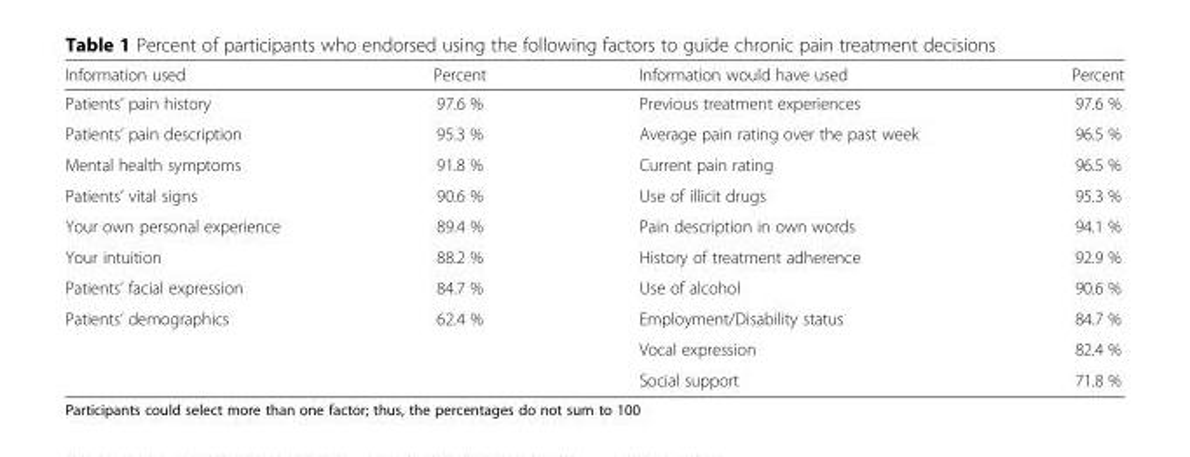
<table><thead><tr><td>Information used</td><td>Percent</td><td>Information would have used</td><td>Percent</td></tr></thead><tbody><tr><td>Patients’ pain history</td><td>97.6 %</td><td>Previous treatment experiences</td><td>97.6 %</td></tr><tr><td>Patients’ pain description</td><td>95.3 %</td><td>Average pain rating over the past week</td><td>96.5 %</td></tr><tr><td>Mental health symptoms</td><td>91.8 %</td><td>Current pain rating</td><td>96.5 %</td></tr><tr><td>Patients’ vital signs</td><td>90.6 %</td><td>Use of illicit drugs</td><td>95.3 %</td></tr><tr><td>Your own personal experience</td><td>89.4 %</td><td>Pain description in own words</td><td>94.1 %</td></tr><tr><td>Your intuition</td><td>88.2 %</td><td>History of treatment adherence</td><td>92.9 %</td></tr><tr><td>Patients’ facial expression</td><td>84.7 %</td><td>Use of alcohol</td><td>90.6 %</td></tr><tr><td rowspan="3">Patients’ demographics</td><td>62.4 %</td><td>Employment/Disability status</td><td>84.7 %</td></tr><tr><td></td><td>Vocal expression</td><td>82.4 %</td></tr><tr><td></td><td>Social support</td><td>71.8 %</td></tr></tbody></table>